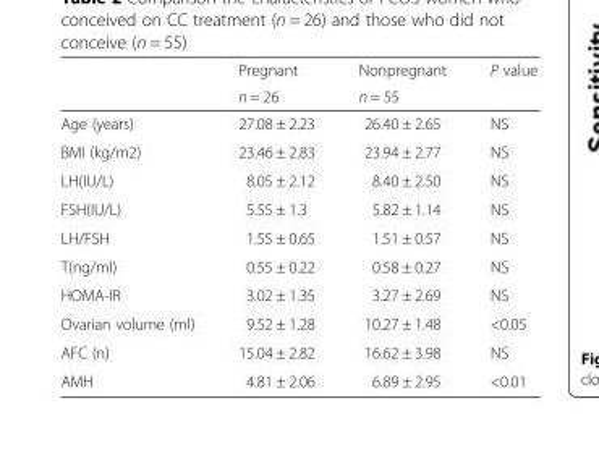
<table><thead><tr><td rowspan="2"></td><td rowspan="2">Pregnant n = 26</td><td rowspan="2">Nonpregnant n = 55</td><td rowspan="2">P value</td></tr><tr></tr></thead><tbody><tr><td>Age (years)</td><td>27.08 ± 2.23</td><td>26.40 ± 2.65</td><td>NS</td></tr><tr><td>BMI (kg/m2)</td><td>23.46 ± 2.83</td><td>23.94 ± 2.77</td><td>NS</td></tr><tr><td>LH(IU/L)</td><td>8.05 ± 2.12</td><td>8.40 ± 2.50</td><td>NS</td></tr><tr><td>FSH(IU/L)</td><td>5.55 ± 1.3</td><td>5.82 ± 1.14</td><td>NS</td></tr><tr><td>LH/FSH</td><td>1.55 ± 0.65</td><td>1.51 ± 0.57</td><td>NS</td></tr><tr><td>T(ng/ml)</td><td>0.55 ± 0.22</td><td>0.58 ± 0.27</td><td>NS</td></tr><tr><td>HOMA-IR</td><td>3.02 ± 1.35</td><td>3.27 ± 2.69</td><td>NS</td></tr><tr><td>Ovarian volume (ml)</td><td>9.52 ± 1.28</td><td>10.27 ± 1.48</td><td>&lt;0.05</td></tr><tr><td>AFC (n)</td><td>15.04 ± 2.82</td><td>16.62 ± 3.98</td><td>NS</td></tr><tr><td>AMH</td><td>4.81 ± 2.06</td><td>6.89 ± 2.95</td><td>&lt;0.01</td></tr></tbody></table>